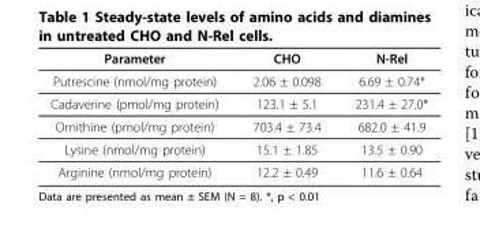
<table><thead><tr><td>Parameter</td><td>CHO</td><td>N-Rel</td></tr></thead><tbody><tr><td>Putrescine (nmol/mg protein)</td><td>2.06 ± 0.098</td><td>6.69 ± 0.74*</td></tr><tr><td>Cadaverine (pmol/mg protein)</td><td>123.1 ± 5.1</td><td>231.4 ± 27.0*</td></tr><tr><td>Ornithine (pmol/mg protein)</td><td>703.4 ± 73.4</td><td>682.0 ± 41.9</td></tr><tr><td>Lysine (nmol/mg protein)</td><td>15.1 ± 1.85</td><td>13.5 ± 0.90</td></tr><tr><td>Arginine (nmol/mg protein)</td><td>12.2 ± 0.49</td><td>11.6 ± 0.64</td></tr></tbody></table>